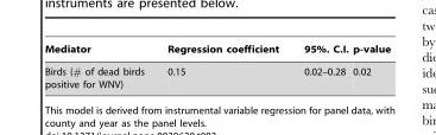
<table><thead><tr><td>Mediator</td><td>Regression coefficient</td><td>95%. C.I.</td><td>p-value</td></tr></thead><tbody><tr><td>Birds (# of dead birds positive for WNV)</td><td>0.15</td><td>0.02–0.28</td><td>0.02</td></tr></tbody></table>